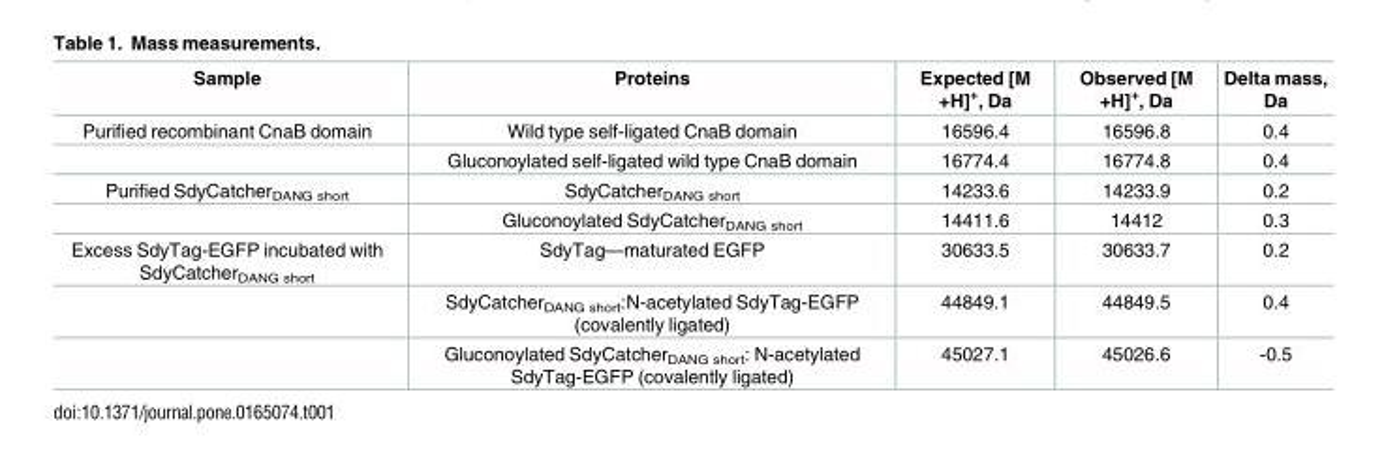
<table><thead><tr><td>Sample</td><td>Proteins</td><td>Expected [M +H]<sup>+</sup>, Da</td><td>Observed [M +H]<sup>+</sup>, Da</td><td>Delta mass, Da</td></tr></thead><tbody><tr><td rowspan="2">Purified recombinant CnaB domain</td><td>Wild type self-ligated CnaB domain</td><td>16596.4</td><td>16596.8</td><td>0.4</td></tr><tr><td>Gluconoylated self-ligated wild type CnaB domain</td><td>16774.4</td><td>16774.8</td><td>0.4</td></tr><tr><td rowspan="2">Purified SdyCatcher<sub>DANG short</sub></td><td>SdyCatcher<sub>DANG short</sub></td><td>14233.6</td><td>14233.9</td><td>0.2</td></tr><tr><td>Gluconoylated SdyCatcher<sub>DANG short</sub></td><td>14411.6</td><td>14412</td><td>0.3</td></tr><tr><td rowspan="3">Excess SdyTag-EGFP incubated with SdyCatcher<sub>DANG short</sub></td><td>SdyTag—maturated EGFP</td><td>30633.5</td><td>30633.7</td><td>0.2</td></tr><tr><td>SdyCatcher<sub>DANG short</sub>:N-acetylated SdyTag-EGFP (covalently ligated)</td><td>44849.1</td><td>44849.5</td><td>0.4</td></tr><tr><td>Gluconoylated SdyCatcher<sub>DANG short</sub>: N-acetylated SdyTag-EGFP (covalently ligated)</td><td>45027.1</td><td>45026.6</td><td>-0.5</td></tr></tbody></table>